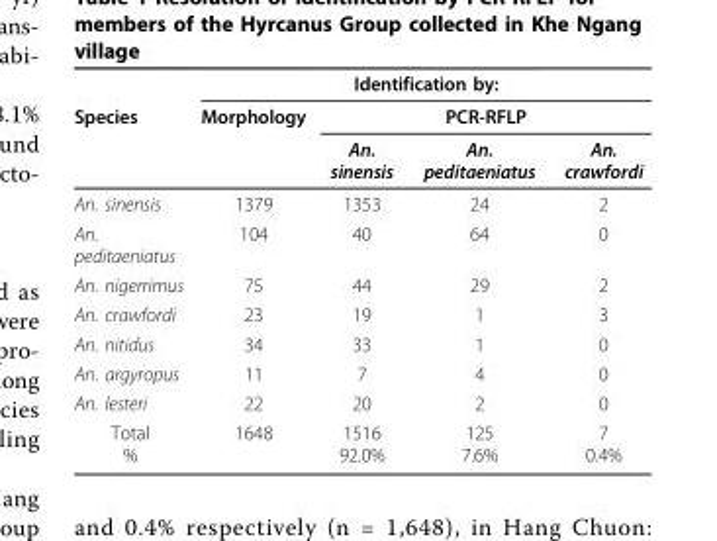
<table><thead><tr><td rowspan="3">Species</td><td colspan="4">Identification by:</td></tr><tr><td rowspan="2">Morphology</td><td colspan="3">PCR-RFLP</td></tr><tr><td>An. sinensis</td><td>An. peditaeniatus</td><td>An. crawfordi</td></tr></thead><tbody><tr><td>An. sinensis</td><td>1379</td><td>1353</td><td>24</td><td>2</td></tr><tr><td>An. peditaeniatus</td><td>104</td><td>40</td><td>64</td><td>0</td></tr><tr><td>An. nigerrimus</td><td>75</td><td>44</td><td>29</td><td>2</td></tr><tr><td>An. crawfordi</td><td>23</td><td>19</td><td>1</td><td>3</td></tr><tr><td>An. nitidus</td><td>34</td><td>33</td><td>1</td><td>0</td></tr><tr><td>An. argyropus</td><td>11</td><td>7</td><td>4</td><td>0</td></tr><tr><td>An. lesteri</td><td>22</td><td>20</td><td>2</td><td>0</td></tr><tr><td>Total %</td><td>1648</td><td>1516 92.0%</td><td>125 7.6%</td><td>7 0.4%</td></tr></tbody></table>